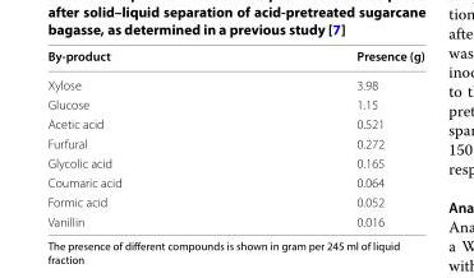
<table><thead><tr><td>By‑product</td><td>Presence (g)</td></tr></thead><tbody><tr><td>Xylose</td><td>3.98</td></tr><tr><td>Glucose</td><td>1.15</td></tr><tr><td>Acetic acid</td><td>0.521</td></tr><tr><td>Furfural</td><td>0.272</td></tr><tr><td>Glycolic acid</td><td>0.165</td></tr><tr><td>Coumaric acid</td><td>0.064</td></tr><tr><td>Formic acid</td><td>0.052</td></tr><tr><td>Vanillin</td><td>0.016</td></tr></tbody></table>